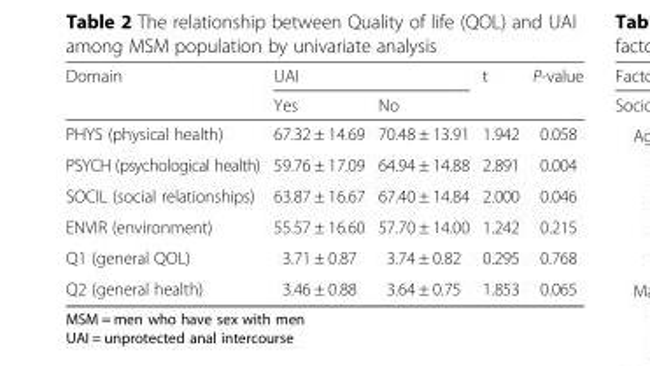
<table><thead><tr><td rowspan="2">Domain</td><td colspan="2">UAI</td><td rowspan="2">t</td><td rowspan="2">P-value</td></tr><tr><td>Yes</td><td>No</td></tr></thead><tbody><tr><td>PHYS (physical health)</td><td>67.32 ± 14.69</td><td>70.48 ± 13.91</td><td>1.942</td><td>0.058</td></tr><tr><td>PSYCH (psychological health)</td><td>59.76 ± 17.09</td><td>64.94 ± 14.88</td><td>2.891</td><td>0.004</td></tr><tr><td>SOCIL (social relationships)</td><td>63.87 ± 16.67</td><td>67.40 ± 14.84</td><td>2.000</td><td>0.046</td></tr><tr><td>ENVIR (environment)</td><td>55.57 ± 16.60</td><td>57.70 ± 14.00</td><td>1.242</td><td>0.215</td></tr><tr><td>Q1 (general QOL)</td><td>3.71 ± 0.87</td><td>3.74 ± 0.82</td><td>0.295</td><td>0.768</td></tr><tr><td>Q2 (general health)</td><td>3.46 ± 0.88</td><td>3.64 ± 0.75</td><td>1.853</td><td>0.065</td></tr></tbody></table>